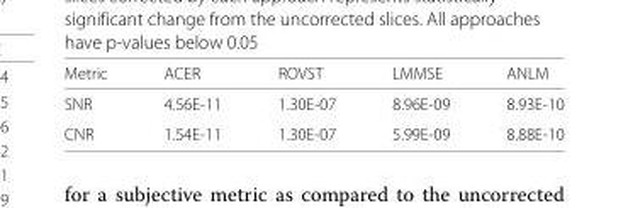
<table><thead><tr><td>Metric</td><td>ACER</td><td>ROVST</td><td>LMMSE</td><td>ANLM</td></tr></thead><tbody><tr><td>SNR</td><td>4.56E-11</td><td>1.30E-07</td><td>8.96E-09</td><td>8.93E-10</td></tr><tr><td>CNR</td><td>1.54E-11</td><td>1.30E-07</td><td>5.99E-09</td><td>8.88E-10</td></tr></tbody></table>